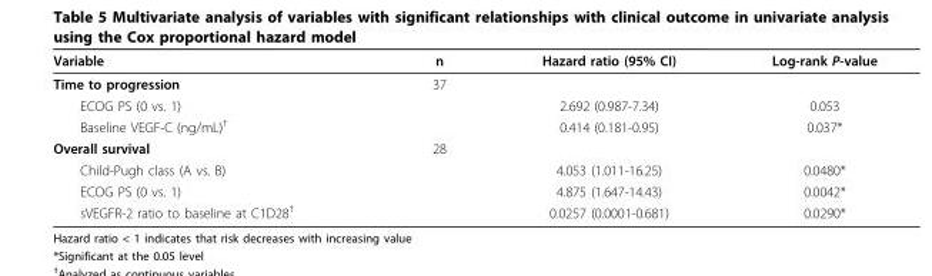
<table><thead><tr><td>Variable</td><td>n</td><td>Hazard ratio (95% CI)</td><td>Log-rank P-value</td></tr></thead><tbody><tr><td>Time to progression</td><td>37</td><td></td><td></td></tr><tr><td>ECOG PS (0 vs. 1)</td><td></td><td>2.692 (0.987-7.34)</td><td>0.053</td></tr><tr><td>Baseline VEGF-C (ng/mL)<sup>†</sup></td><td></td><td>0.414 (0.181-0.95)</td><td>0.037*</td></tr><tr><td>Overall survival</td><td>28</td><td></td><td></td></tr><tr><td>Child-Pugh class (A vs. B)</td><td></td><td>4.053 (1.011-16.25)</td><td>0.0480*</td></tr><tr><td>ECOG PS (0 vs. 1)</td><td></td><td>4.875 (1.647-14.43)</td><td>0.0042*</td></tr><tr><td>sVEGFR-2 ratio to baseline at C1D28<sup>†</sup></td><td></td><td>0.0257 (0.0001-0.681)</td><td>0.0290*</td></tr></tbody></table>